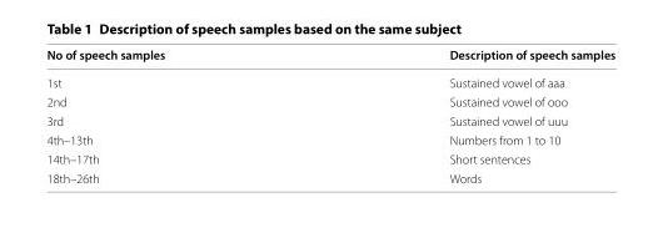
<table><thead><tr><td>No of speech samples</td><td>Description of speech samples</td></tr></thead><tbody><tr><td>1st</td><td>Sustained vowel of aaa</td></tr><tr><td>2nd</td><td>Sustained vowel of ooo</td></tr><tr><td>3rd</td><td>Sustained vowel of uuu</td></tr><tr><td>4th–13th</td><td>Numbers from 1 to 10</td></tr><tr><td>14th–17th</td><td>Short sentences</td></tr><tr><td>18th–26th</td><td>Words</td></tr></tbody></table>